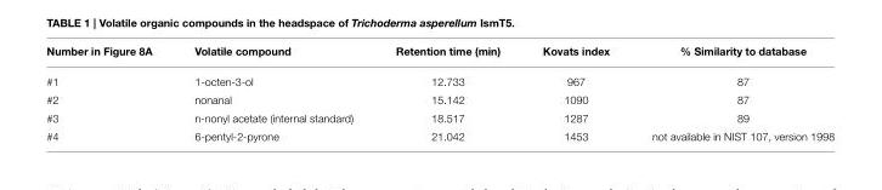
<table><thead><tr><td>Number in Figure 8A</td><td>Volatile compound</td><td>Retention time (min)</td><td>Kovats index</td><td>% Similarity to database</td></tr></thead><tbody><tr><td>#1</td><td>1-octen-3-ol</td><td>12.733</td><td>967</td><td>87</td></tr><tr><td>#2</td><td>nonanal</td><td>15.142</td><td>1090</td><td>87</td></tr><tr><td>#3</td><td>n-nonyl acetate (internal standard)</td><td>18.517</td><td>1287</td><td>89</td></tr><tr><td>#4</td><td>6-pentyl-2-pyrone</td><td>21.042</td><td>1453</td><td>not available in NIST 107, version 1998</td></tr></tbody></table>